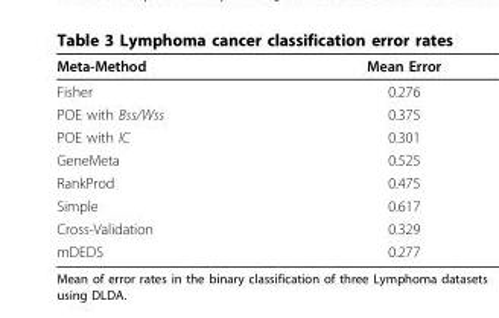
<table><thead><tr><td>Meta-Method</td><td>Mean Error</td></tr></thead><tbody><tr><td>Fisher</td><td>0.276</td></tr><tr><td>POE with Bss/Wss</td><td>0.375</td></tr><tr><td>POE with IC</td><td>0.301</td></tr><tr><td>GeneMeta</td><td>0.525</td></tr><tr><td>RankProd</td><td>0.475</td></tr><tr><td>Simple</td><td>0.617</td></tr><tr><td>Cross-Validation</td><td>0.329</td></tr><tr><td>mDEDS</td><td>0.277</td></tr></tbody></table>